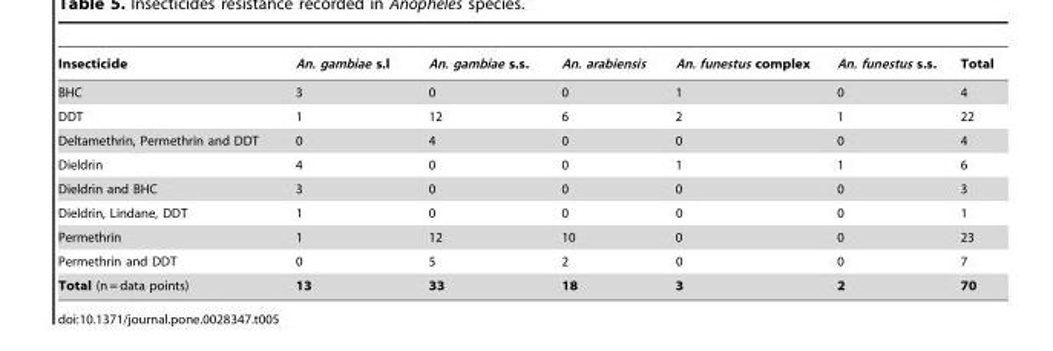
<table><thead><tr><td>Insecticide</td><td>An. gambiae s.l</td><td>An. gambiae s.s.</td><td>An. arabiensis</td><td>An. funestus complex</td><td>An. funestus s.s.</td><td>Total</td></tr></thead><tbody><tr><td>BHC</td><td>3</td><td>0</td><td>0</td><td>1</td><td>0</td><td>4</td></tr><tr><td>DDT</td><td>1</td><td>12</td><td>6</td><td>2</td><td>1</td><td>22</td></tr><tr><td>Deltamethrin, Permethrin and DDT</td><td>0</td><td>4</td><td>0</td><td>0</td><td>0</td><td>4</td></tr><tr><td>Dieldrin</td><td>4</td><td>0</td><td>0</td><td>1</td><td>1</td><td>6</td></tr><tr><td>Dieldrin and BHC</td><td>3</td><td>0</td><td>0</td><td>0</td><td>0</td><td>3</td></tr><tr><td>Dieldrin, Lindane, DDT</td><td>1</td><td>0</td><td>0</td><td>0</td><td>0</td><td>1</td></tr><tr><td>Permethrin</td><td>1</td><td>12</td><td>10</td><td>0</td><td>0</td><td>23</td></tr><tr><td>Permethrin and DDT</td><td>0</td><td>5</td><td>2</td><td>0</td><td>0</td><td>7</td></tr><tr><td>Total (n = data points)</td><td>13</td><td>33</td><td>18</td><td>3</td><td>2</td><td>70</td></tr></tbody></table>